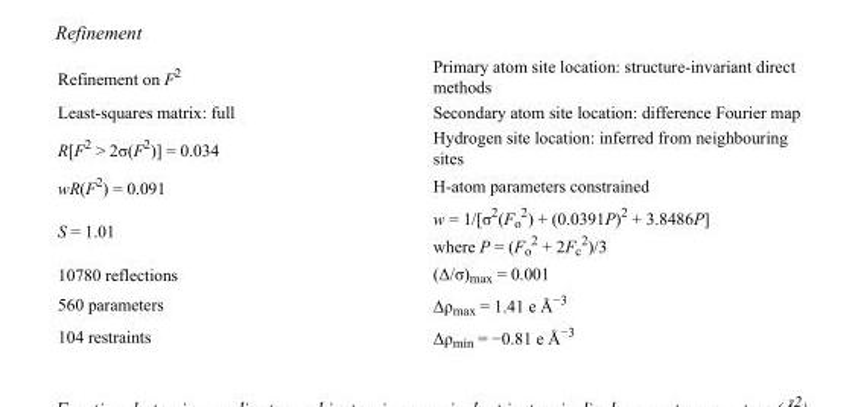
<table><tbody><tr><td>Refinement on F<sup>2</sup></td><td>Primary atom site location: structure-invariant direct methods</td></tr><tr><td>Least-squares matrix: full</td><td>Secondary atom site location: difference Fourier map</td></tr><tr><td>R[F<sup>2</sup> &gt; 2σ(F<sup>2</sup>)] = 0.034</td><td>Hydrogen site location: inferred from neighbouring sites</td></tr><tr><td>wR(F<sup>2</sup>) = 0.091</td><td>H-atom parameters constrained</td></tr><tr><td>S = 1.01</td><td>w = 1/[σ<sup>2</sup>(F<sub>o</sub> <sup>2</sup>) + (0.0391P)<sup>2</sup> + 3.8486P] where P = (F<sub>o</sub> <sup>2</sup> + 2F<sub>c</sub> <sup>2</sup>)/3</td></tr><tr><td>10780 reflections</td><td>(Δ/σ)<sub>max</sub> = 0.001</td></tr><tr><td>560 parameters</td><td>Δρ<sub>max</sub> = 1.41 e Å<sup>−3</sup></td></tr><tr><td>104 restraints</td><td>Δρ<sub>min</sub> = −0.81 e Å<sup>−3</sup></td></tr></tbody></table>